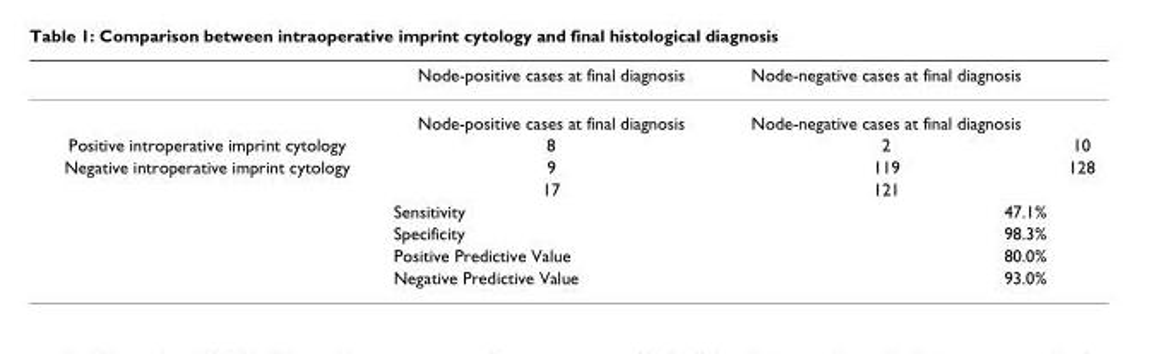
<table><thead><tr><td></td><td>Node-positive cases at final diagnosis</td><td>Node-negative cases at final diagnosis</td><td></td></tr></thead><tbody><tr><td></td><td>Node-positive cases at final diagnosis</td><td>Node-negative cases at final diagnosis</td><td></td></tr><tr><td>Positive introperative imprint cytology</td><td>8</td><td>2</td><td>10</td></tr><tr><td rowspan="6">Negative introperative imprint cytology</td><td>9</td><td>119</td><td>128</td></tr><tr><td>17</td><td>121</td><td></td></tr><tr><td>Sensitivity</td><td>47.1%</td><td></td></tr><tr><td>Specificity</td><td>98.3%</td><td></td></tr><tr><td>Positive Predictive Value</td><td>80.0%</td><td></td></tr><tr><td>Negative Predictive Value</td><td>93.0%</td><td></td></tr></tbody></table>